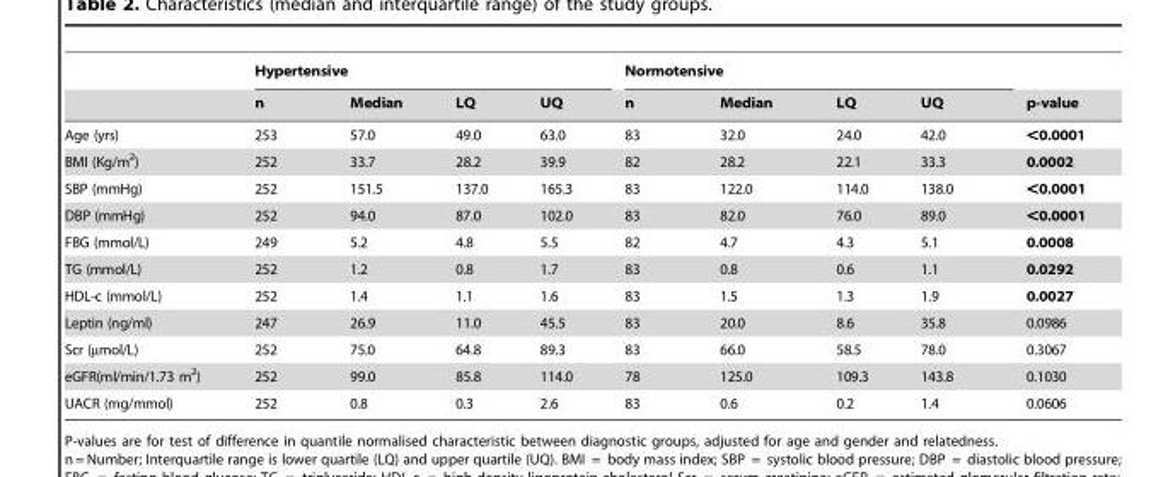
<table><thead><tr><td rowspan="2"></td><td colspan="4">Hypertensive</td><td colspan="4">Normotensive</td><td rowspan="2">p-value</td></tr><tr><td>n</td><td>Median</td><td>LQ</td><td>UQ</td><td>n</td><td>Median</td><td>LQ</td><td>UQ</td></tr></thead><tbody><tr><td>Age (yrs)</td><td>253</td><td>57.0</td><td>49.0</td><td>63.0</td><td>83</td><td>32.0</td><td>24.0</td><td>42.0</td><td>&lt;0.0001</td></tr><tr><td>BMI (Kg/m<sup>2</sup>)</td><td>252</td><td>33.7</td><td>28.2</td><td>39.9</td><td>82</td><td>28.2</td><td>22.1</td><td>33.3</td><td>0.0002</td></tr><tr><td>SBP (mmHg)</td><td>252</td><td>151.5</td><td>137.0</td><td>165.3</td><td>83</td><td>122.0</td><td>114.0</td><td>138.0</td><td>&lt;0.0001</td></tr><tr><td>DBP (mmHg)</td><td>252</td><td>94.0</td><td>87.0</td><td>102.0</td><td>83</td><td>82.0</td><td>76.0</td><td>89.0</td><td>&lt;0.0001</td></tr><tr><td>FBG (mmol/L)</td><td>249</td><td>5.2</td><td>4.8</td><td>5.5</td><td>82</td><td>4.7</td><td>4.3</td><td>5.1</td><td>0.0008</td></tr><tr><td>TG (mmol/L)</td><td>252</td><td>1.2</td><td>0.8</td><td>1.7</td><td>83</td><td>0.8</td><td>0.6</td><td>1.1</td><td>0.0292</td></tr><tr><td>HDL-c (mmol/L)</td><td>252</td><td>1.4</td><td>1.1</td><td>1.6</td><td>83</td><td>1.5</td><td>1.3</td><td>1.9</td><td>0.0027</td></tr><tr><td>Leptin (ng/ml)</td><td>247</td><td>26.9</td><td>11.0</td><td>45.5</td><td>83</td><td>20.0</td><td>8.6</td><td>35.8</td><td>0.0986</td></tr><tr><td>Scr (µmol/L)</td><td>252</td><td>75.0</td><td>64.8</td><td>89.3</td><td>83</td><td>66.0</td><td>58.5</td><td>78.0</td><td>0.3067</td></tr><tr><td>eGFR(ml/min/1.73 m<sup>2</sup>)</td><td>252</td><td>99.0</td><td>85.8</td><td>114.0</td><td>78</td><td>125.0</td><td>109.3</td><td>143.8</td><td>0.1030</td></tr><tr><td>UACR (mg/mmol)</td><td>252</td><td>0.8</td><td>0.3</td><td>2.6</td><td>83</td><td>0.6</td><td>0.2</td><td>1.4</td><td>0.0606</td></tr></tbody></table>